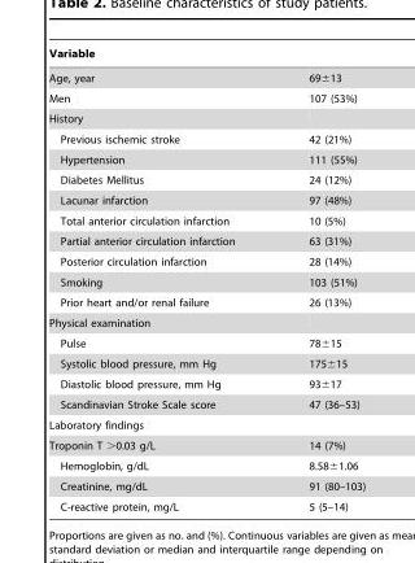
<table><thead><tr><td>Variable</td><td></td></tr></thead><tbody><tr><td>Age, year</td><td>69±13</td></tr><tr><td>Men</td><td>107 (53%)</td></tr><tr><td colspan="2">History</td></tr><tr><td>Previous ischemic stroke</td><td>42 (21%)</td></tr><tr><td>Hypertension</td><td>111 (55%)</td></tr><tr><td>Diabetes Mellitus</td><td>24 (12%)</td></tr><tr><td>Lacunar infarction</td><td>97 (48%)</td></tr><tr><td>Total anterior circulation infarction</td><td>10 (5%)</td></tr><tr><td>Partial anterior circulation infarction</td><td>63 (31%)</td></tr><tr><td>Posterior circulation infarction</td><td>28 (14%)</td></tr><tr><td>Smoking</td><td>103 (51%)</td></tr><tr><td>Prior heart and/or renal failure</td><td>26 (13%)</td></tr><tr><td colspan="2">Physical examination</td></tr><tr><td>Pulse</td><td>78±15</td></tr><tr><td>Systolic blood pressure, mm Hg</td><td>175±15</td></tr><tr><td>Diastolic blood pressure, mm Hg</td><td>93±17</td></tr><tr><td>Scandinavian Stroke Scale score</td><td>47 (36–53)</td></tr><tr><td colspan="2">Laboratory findings</td></tr><tr><td>Troponin T &gt;0.03 g/L</td><td>14 (7%)</td></tr><tr><td>Hemoglobin, g/dL</td><td>8.58±1.06</td></tr><tr><td>Creatinine, mg/dL</td><td>91 (80–103)</td></tr><tr><td>C-reactive protein, mg/L</td><td>5 (5–14)</td></tr></tbody></table>